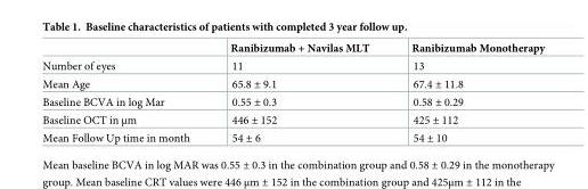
<table><thead><tr><td></td><td>Ranibizumab + Navilas MLT</td><td>Ranibizumab Monotherapy</td></tr></thead><tbody><tr><td>Number of eyes</td><td>11</td><td>13</td></tr><tr><td>Mean Age</td><td>65.8 ± 9.1</td><td>67.4 ± 11.8</td></tr><tr><td>Baseline BCVA in log Mar</td><td>0.55 ± 0.3</td><td>0.58 ± 0.29</td></tr><tr><td>Baseline OCT in μm</td><td>446 ± 152</td><td>425 ± 112</td></tr><tr><td>Mean Follow Up time in month</td><td>54 ± 6</td><td>54 ± 10</td></tr></tbody></table>